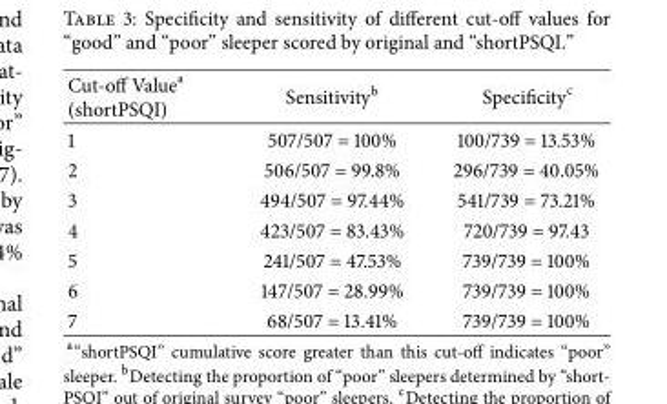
<table><thead><tr><td>Cut-off Value<sup>a</sup> (shortPSQI)</td><td>Sensitivity<sup>b</sup></td><td>Specificity<sup>c</sup></td></tr></thead><tbody><tr><td>1</td><td>507/507 = 100%</td><td>100/739 = 13.53%</td></tr><tr><td>2</td><td>506/507 = 99.8%</td><td>296/739 = 40.05%</td></tr><tr><td>3</td><td>494/507 = 97.44%</td><td>541/739 = 73.21%</td></tr><tr><td>4</td><td>423/507 = 83.43%</td><td>720/739 = 97.43</td></tr><tr><td>5</td><td>241/507 = 47.53%</td><td>739/739 = 100%</td></tr><tr><td>6</td><td>147/507 = 28.99%</td><td>739/739 = 100%</td></tr><tr><td>7</td><td>68/507 = 13.41%</td><td>739/739 = 100%</td></tr></tbody></table>